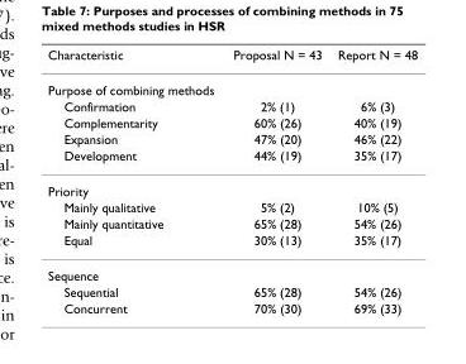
<table><thead><tr><td>Characteristic</td><td>Proposal N = 43</td><td>Report N = 48</td></tr></thead><tbody><tr><td colspan="3">Purpose of combining methods</td></tr><tr><td>Confirmation</td><td>2% (1)</td><td>6% (3)</td></tr><tr><td>Complementarity</td><td>60% (26)</td><td>40% (19)</td></tr><tr><td>Expansion</td><td>47% (20)</td><td>46% (22)</td></tr><tr><td>Development</td><td>44% (19)</td><td>35% (17)</td></tr><tr><td colspan="3">Priority</td></tr><tr><td>Mainly qualitative</td><td>5% (2)</td><td>10% (5)</td></tr><tr><td>Mainly quantitative</td><td>65% (28)</td><td>54% (26)</td></tr><tr><td>Equal</td><td>30% (13)</td><td>35% (17)</td></tr><tr><td colspan="3">Sequence</td></tr><tr><td>Sequential</td><td>65% (28)</td><td>54% (26)</td></tr><tr><td>Concurrent</td><td>70% (30)</td><td>69% (33)</td></tr></tbody></table>